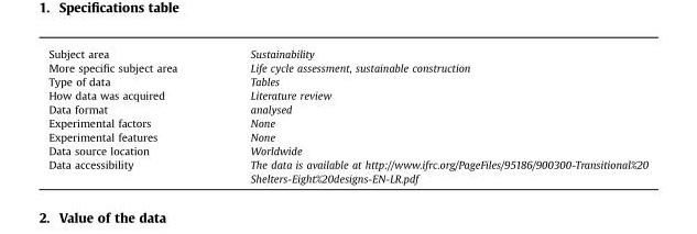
<table><tbody><tr><td>Subject area</td><td>Sustainability</td></tr><tr><td>More specific subject area</td><td>Life cycle assessment, sustainable construction</td></tr><tr><td>Type of data</td><td>Tables</td></tr><tr><td>How data was acquired</td><td>Literature review</td></tr><tr><td>Data format</td><td>analysed</td></tr><tr><td>Experimental factors</td><td>None</td></tr><tr><td>Experimental features</td><td>None</td></tr><tr><td>Data source location</td><td>Worldwide</td></tr><tr><td>Data accessibility</td><td>The data is available at http://www.ifrc.org/PageFiles/95186/900300-Transitional%20 Shelters-Eight%20designs-EN-LR.pdf</td></tr></tbody></table>